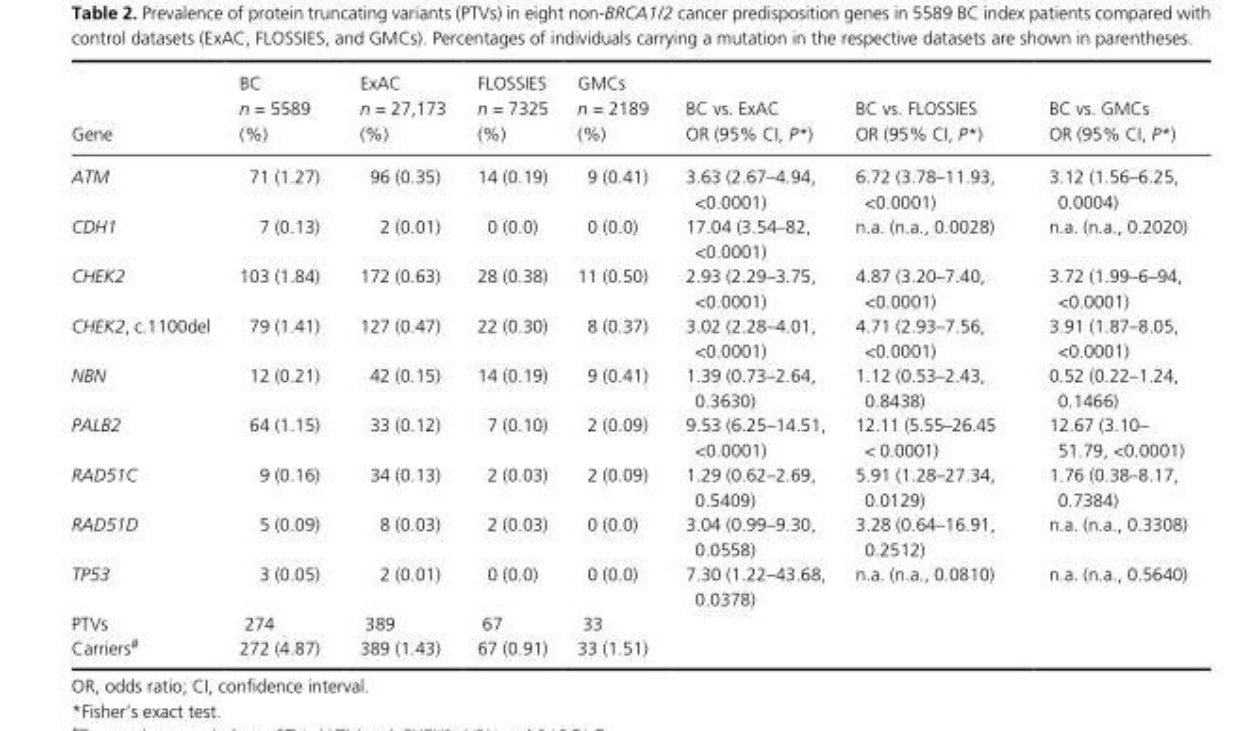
<table><thead><tr><td>Gene</td><td>BC n = 5589 (%)</td><td>ExAC n = 27,173 (%)</td><td>FLOSSIES n = 7325 (%)</td><td>GMCs n = 2189 (%)</td><td>BC vs. ExAC OR (95% CI, P*)</td><td>BC vs. FLOSSIES OR (95% CI, P*)</td><td>BC vs. GMCs OR (95% CI, P*)</td></tr></thead><tbody><tr><td>ATM</td><td>71 (1.27)</td><td>96 (0.35)</td><td>14 (0.19)</td><td>9 (0.41)</td><td>3.63 (2.67–4.94, &lt;0.0001)</td><td>6.72 (3.78–11.93, &lt;0.0001)</td><td>3.12 (1.56–6.25, 0.0004)</td></tr><tr><td>CDH1</td><td>7 (0.13)</td><td>2 (0.01)</td><td>0 (0.0)</td><td>0 (0.0)</td><td>17.04 (3.54–82, &lt;0.0001)</td><td>n.a. (n.a., 0.0028)</td><td>n.a. (n.a., 0.2020)</td></tr><tr><td>CHEK2</td><td>103 (1.84)</td><td>172 (0.63)</td><td>28 (0.38)</td><td>11 (0.50)</td><td>2.93 (2.29–3.75, &lt;0.0001)</td><td>4.87 (3.20–7.40, &lt;0.0001)</td><td>3.72 (1.99–6–94, &lt;0.0001)</td></tr><tr><td>CHEK2, c.1100del</td><td>79 (1.41)</td><td>127 (0.47)</td><td>22 (0.30)</td><td>8 (0.37)</td><td>3.02 (2.28–4.01, &lt;0.0001)</td><td>4.71 (2.93–7.56, &lt;0.0001)</td><td>3.91 (1.87–8.05, &lt;0.0001)</td></tr><tr><td>NBN</td><td>12 (0.21)</td><td>42 (0.15)</td><td>14 (0.19)</td><td>9 (0.41)</td><td>1.39 (0.73–2.64, 0.3630)</td><td>1.12 (0.53–2.43, 0.8438)</td><td>0.52 (0.22–1.24, 0.1466)</td></tr><tr><td>PALB2</td><td>64 (1.15)</td><td>33 (0.12)</td><td>7 (0.10)</td><td>2 (0.09)</td><td>9.53 (6.25–14.51, &lt;0.0001)</td><td>12.11 (5.55–26.45 &lt; 0.0001)</td><td>12.67 (3.10– 51.79, &lt;0.0001)</td></tr><tr><td>RAD51C</td><td>9 (0.16)</td><td>34 (0.13)</td><td>2 (0.03)</td><td>2 (0.09)</td><td>1.29 (0.62–2.69, 0.5409)</td><td>5.91 (1.28–27.34, 0.0129)</td><td>1.76 (0.38–8.17, 0.7384)</td></tr><tr><td>RAD51D</td><td>5 (0.09)</td><td>8 (0.03)</td><td>2 (0.03)</td><td>0 (0.0)</td><td>3.04 (0.99–9.30, 0.0558)</td><td>3.28 (0.64–16.91, 0.2512)</td><td>n.a. (n.a., 0.3308)</td></tr><tr><td>TP53</td><td>3 (0.05)</td><td>2 (0.01)</td><td>0 (0.0)</td><td>0 (0.0)</td><td>7.30 (1.22–43.68, 0.0378)</td><td>n.a. (n.a., 0.0810)</td><td>n.a. (n.a., 0.5640)</td></tr><tr><td>PTVs</td><td>274</td><td>389</td><td>67</td><td>33</td><td></td><td></td><td></td></tr><tr><td>Carriers#</td><td>272 (4.87)</td><td>389 (1.43)</td><td>67 (0.91)</td><td>33 (1.51)</td><td></td><td></td><td></td></tr></tbody></table>